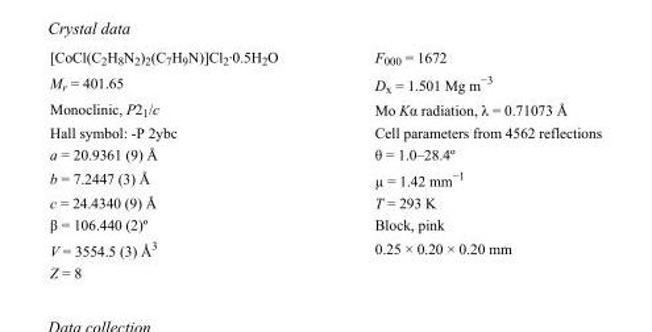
<table><tbody><tr><td>[CoCl(C<sub>2</sub>H<sub>8</sub>N<sub>2</sub>)<sub>2</sub>(C<sub>7</sub>H<sub>9</sub>N)]Cl<sub>2</sub>·0.5H<sub>2</sub>O</td><td>F000 = 1672</td></tr><tr><td>M<sub>r</sub> = 401.65</td><td>D<sub>x</sub> = 1.501 Mg m<sup>−3</sup></td></tr><tr><td>Monoclinic, P2<sub>1</sub>/c</td><td>Mo Kα radiation, λ = 0.71073 Å</td></tr><tr><td>Hall symbol: -P 2ybc</td><td>Cell parameters from 4562 reflections</td></tr><tr><td>a = 20.9361 (9) Å</td><td>θ = 1.0–28.4º</td></tr><tr><td>b = 7.2447 (3) Å</td><td>µ = 1.42 mm<sup>−1</sup></td></tr><tr><td>c = 24.4340 (9) Å</td><td>T = 293 K</td></tr><tr><td>β = 106.440 (2)º</td><td>Block, pink</td></tr><tr><td>V = 3554.5 (3) Å<sup>3</sup></td><td>0.25 × 0.20 × 0.20 mm</td></tr><tr><td>Z = 8</td><td></td></tr></tbody></table>